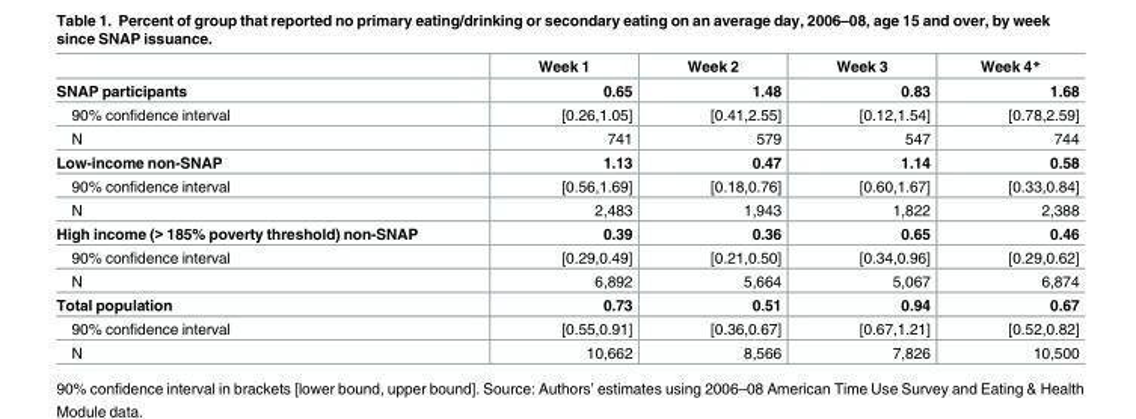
<table><thead><tr><td></td><td>Week 1</td><td>Week 2</td><td>Week 3</td><td>Week 4*</td></tr></thead><tbody><tr><td>SNAP participants</td><td>0.65</td><td>1.48</td><td>0.83</td><td>1.68</td></tr><tr><td>90% confidence interval</td><td>[0.26,1.05]</td><td>[0.41,2.55]</td><td>[0.12,1.54]</td><td>[0.78,2.59]</td></tr><tr><td>N</td><td>741</td><td>579</td><td>547</td><td>744</td></tr><tr><td>Low-income non-SNAP</td><td>1.13</td><td>0.47</td><td>1.14</td><td>0.58</td></tr><tr><td>90% confidence interval</td><td>[0.56,1.69]</td><td>[0.18,0.76]</td><td>[0.60,1.67]</td><td>[0.33,0.84]</td></tr><tr><td>N</td><td>2,483</td><td>1,943</td><td>1,822</td><td>2,388</td></tr><tr><td>High income (&gt; 185% poverty threshold) non-SNAP</td><td>0.39</td><td>0.36</td><td>0.65</td><td>0.46</td></tr><tr><td>90% confidence interval</td><td>[0.29,0.49]</td><td>[0.21,0.50]</td><td>[0.34,0.96]</td><td>[0.29,0.62]</td></tr><tr><td>N</td><td>6,892</td><td>5,664</td><td>5,067</td><td>6,874</td></tr><tr><td>Total population</td><td>0.73</td><td>0.51</td><td>0.94</td><td>0.67</td></tr><tr><td>90% confidence interval</td><td>[0.55,0.91]</td><td>[0.36,0.67]</td><td>[0.67,1.21]</td><td>[0.52,0.82]</td></tr><tr><td>N</td><td>10,662</td><td>8,566</td><td>7,826</td><td>10,500</td></tr></tbody></table>